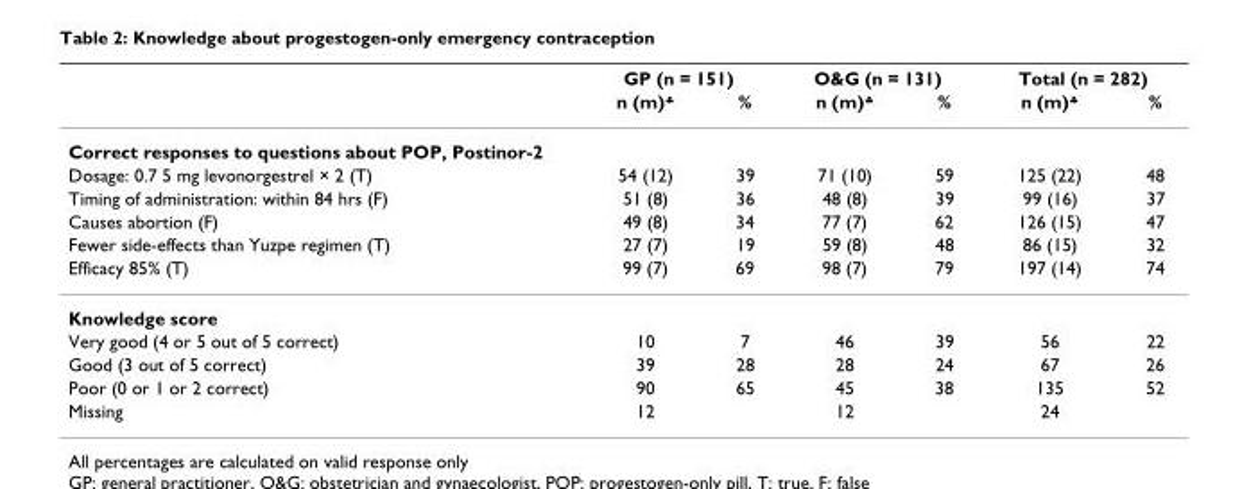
<table><thead><tr><td rowspan="2"></td><td colspan="2">GP (n = 151)</td><td colspan="2">O&amp;G (n = 131)</td><td colspan="2">Total (n = 282)</td></tr><tr><td>n (m)<sup>♣</sup></td><td>%</td><td>n (m)<sup>♣</sup></td><td>%</td><td>n (m)<sup>♣</sup></td><td>%</td></tr></thead><tbody><tr><td colspan="7">Correct responses to questions about POP, Postinor-2</td></tr><tr><td>Dosage: 0.7 5 mg levonorgestrel × 2 (T)</td><td>54 (12)</td><td>39</td><td>71 (10)</td><td>59</td><td>125 (22)</td><td>48</td></tr><tr><td>Timing of administration: within 84 hrs (F)</td><td>51 (8)</td><td>36</td><td>48 (8)</td><td>39</td><td>99 (16)</td><td>37</td></tr><tr><td>Causes abortion (F)</td><td>49 (8)</td><td>34</td><td>77 (7)</td><td>62</td><td>126 (15)</td><td>47</td></tr><tr><td>Fewer side-effects than Yuzpe regimen (T)</td><td>27 (7)</td><td>19</td><td>59 (8)</td><td>48</td><td>86 (15)</td><td>32</td></tr><tr><td>Efficacy 85% (T)</td><td>99 (7)</td><td>69</td><td>98 (7)</td><td>79</td><td>197 (14)</td><td>74</td></tr><tr><td colspan="7">Knowledge score</td></tr><tr><td>Very good (4 or 5 out of 5 correct)</td><td>10</td><td>7</td><td>46</td><td>39</td><td>56</td><td>22</td></tr><tr><td>Good (3 out of 5 correct)</td><td>39</td><td>28</td><td>28</td><td>24</td><td>67</td><td>26</td></tr><tr><td>Poor (0 or 1 or 2 correct)</td><td>90</td><td>65</td><td>45</td><td>38</td><td>135</td><td>52</td></tr><tr><td>Missing</td><td>12</td><td></td><td>12</td><td></td><td>24</td><td></td></tr></tbody></table>